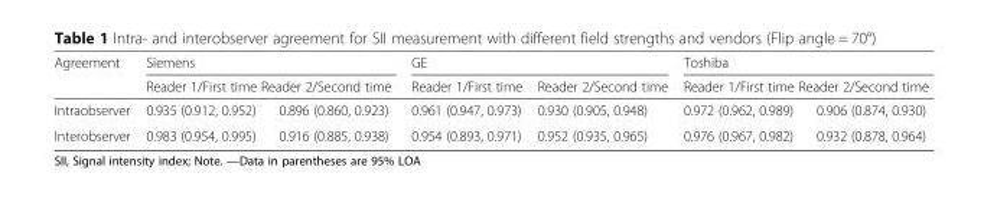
<table><thead><tr><td rowspan="3">Agreement Intraobserver</td><td rowspan="2" colspan="2">Siemens Reader 1/First time Reader 2/Second time</td><td colspan="2">GE</td><td rowspan="2" colspan="2">Toshiba Reader 1/First time Reader 2/Second time</td></tr><tr><td rowspan="2">Reader 1/First time 0.961 (0.947, 0.973)</td><td rowspan="2">Reader 2/Second time 0.930 (0.905, 0.948)</td></tr><tr><td>0.935 (0.912, 0.952)</td><td>0.896 (0.860, 0.923)</td><td>0.972 (0.962, 0.989)</td><td>0.906 (0.874, 0.930)</td></tr></thead><tbody><tr><td>Interobserver</td><td>0.983 (0.954, 0.995)</td><td>0.916 (0.885, 0.938)</td><td>0.954 (0.893, 0.971)</td><td>0.952 (0.935, 0.965)</td><td>0.976 (0.967, 0.982)</td><td>0.932 (0.878, 0.964)</td></tr></tbody></table>